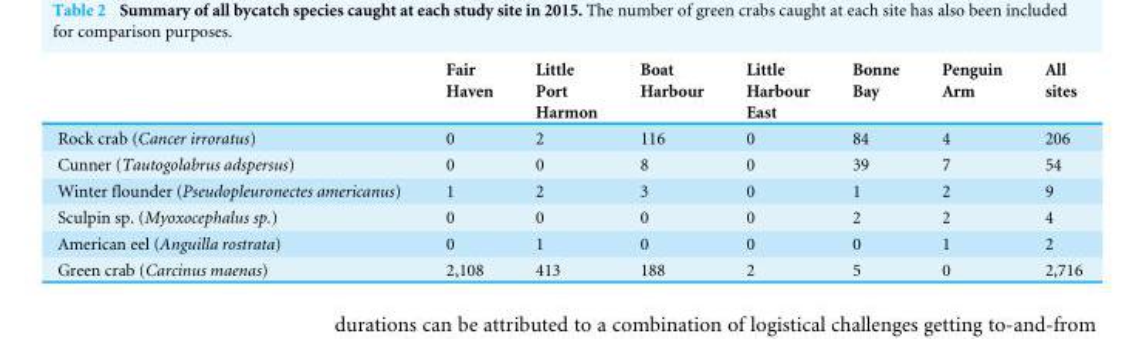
<table><thead><tr><td></td><td>Fair Haven</td><td>Little Port Harmon</td><td>Boat Harbour</td><td>Little Harbour East</td><td>Bonne Bay</td><td>Penguin Arm</td><td>All sites</td></tr></thead><tbody><tr><td>Rock crab (Cancer irroratus)</td><td>0</td><td>2</td><td>116</td><td>0</td><td>84</td><td>4</td><td>206</td></tr><tr><td>Cunner (Tautogolabrus adspersus)</td><td>0</td><td>0</td><td>8</td><td>0</td><td>39</td><td>7</td><td>54</td></tr><tr><td>Winter flounder (Pseudopleuronectes americanus)</td><td>1</td><td>2</td><td>3</td><td>0</td><td>1</td><td>2</td><td>9</td></tr><tr><td>Sculpin sp. (Myoxocephalus sp.)</td><td>0</td><td>0</td><td>0</td><td>0</td><td>2</td><td>2</td><td>4</td></tr><tr><td>American eel (Anguilla rostrata)</td><td>0</td><td>1</td><td>0</td><td>0</td><td>0</td><td>1</td><td>2</td></tr><tr><td>Green crab (Carcinus maenas)</td><td>2,108</td><td>413</td><td>188</td><td>2</td><td>5</td><td>0</td><td>2,716</td></tr></tbody></table>